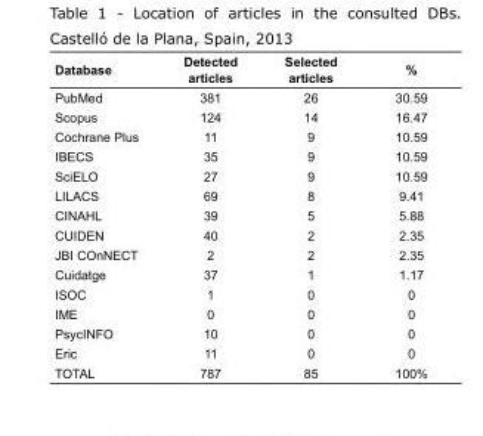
<table><thead><tr><td>Database</td><td>Detected articles</td><td>Selected articles</td><td>%</td></tr></thead><tbody><tr><td>PubMed</td><td>381</td><td>26</td><td>30.59</td></tr><tr><td>Scopus</td><td>124</td><td>14</td><td>16.47</td></tr><tr><td>Cochrane Plus</td><td>11</td><td>9</td><td>10.59</td></tr><tr><td>IBECS</td><td>35</td><td>9</td><td>10.59</td></tr><tr><td>SciELO</td><td>27</td><td>9</td><td>10.59</td></tr><tr><td>LILACS</td><td>69</td><td>8</td><td>9.41</td></tr><tr><td>CINAHL</td><td>39</td><td>5</td><td>5.88</td></tr><tr><td>CUIDEN</td><td>40</td><td>2</td><td>2.35</td></tr><tr><td>JBI COnNECT</td><td>2</td><td>2</td><td>2.35</td></tr><tr><td>Cuidatge</td><td>37</td><td>1</td><td>1.17</td></tr><tr><td>ISOC</td><td>1</td><td>0</td><td>0</td></tr><tr><td>IME</td><td>0</td><td>0</td><td>0</td></tr><tr><td>PsycINFO</td><td>10</td><td>0</td><td>0</td></tr><tr><td>Eric</td><td>11</td><td>0</td><td>0</td></tr><tr><td>TOTAL</td><td>787</td><td>85</td><td>100%</td></tr></tbody></table>